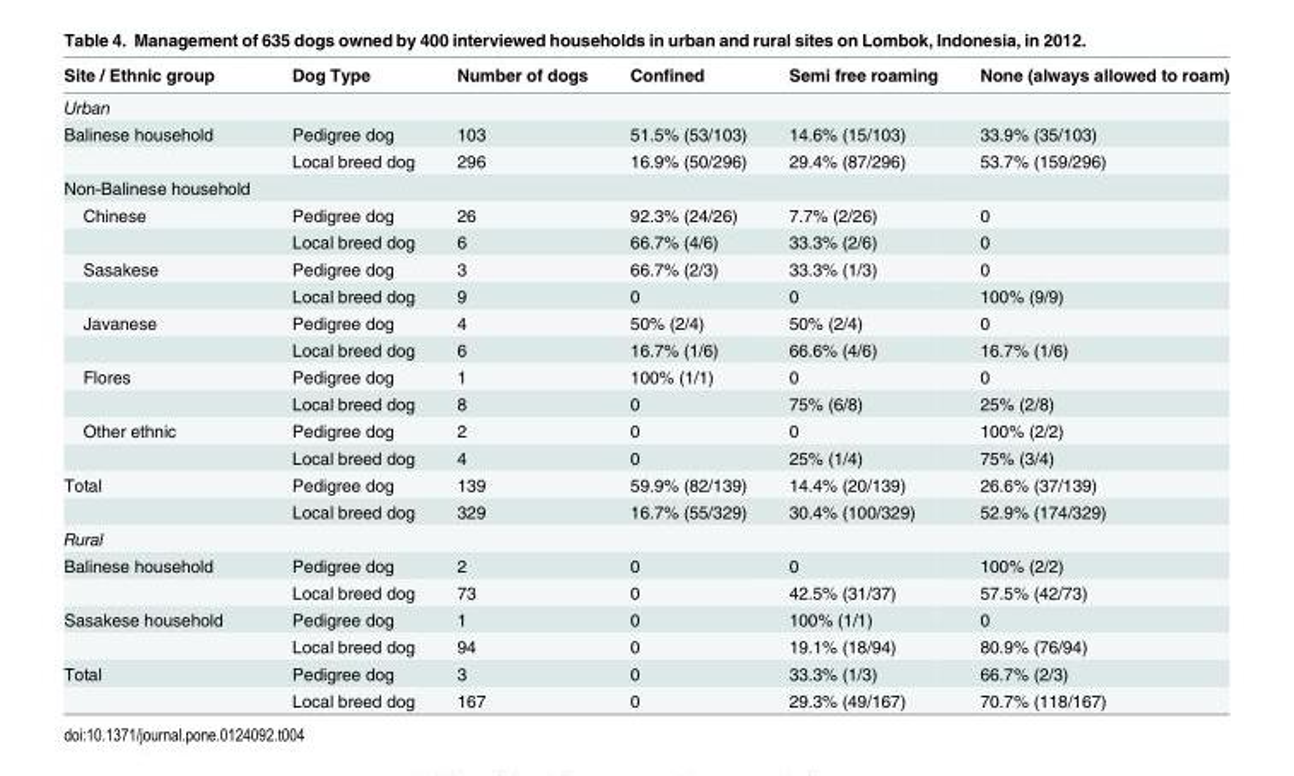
<table><thead><tr><td>Site / Ethnic group</td><td>Dog Type</td><td>Number of dogs</td><td>Confined</td><td>Semi free roaming</td><td>None (always allowed to roam)</td></tr></thead><tbody><tr><td colspan="6">Urban</td></tr><tr><td rowspan="2">Balinese household</td><td>Pedigree dog</td><td>103</td><td>51.5% (53/103)</td><td>14.6% (15/103)</td><td>33.9% (35/103)</td></tr><tr><td>Local breed dog</td><td>296</td><td>16.9% (50/296)</td><td>29.4% (87/296)</td><td>53.7% (159/296)</td></tr><tr><td colspan="6">Non-Balinese household</td></tr><tr><td rowspan="2">Chinese</td><td>Pedigree dog</td><td>26</td><td>92.3% (24/26)</td><td>7.7% (2/26)</td><td>0</td></tr><tr><td>Local breed dog</td><td>6</td><td>66.7% (4/6)</td><td>33.3% (2/6)</td><td>0</td></tr><tr><td rowspan="2">Sasakese</td><td>Pedigree dog</td><td>3</td><td>66.7% (2/3)</td><td>33.3% (1/3)</td><td>0</td></tr><tr><td>Local breed dog</td><td>9</td><td>0</td><td>0</td><td>100% (9/9)</td></tr><tr><td rowspan="2">Javanese</td><td>Pedigree dog</td><td>4</td><td>50% (2/4)</td><td>50% (2/4)</td><td>0</td></tr><tr><td>Local breed dog</td><td>6</td><td>16.7% (1/6)</td><td>66.6% (4/6)</td><td>16.7% (1/6)</td></tr><tr><td rowspan="2">Flores</td><td>Pedigree dog</td><td>1</td><td>100% (1/1)</td><td>0</td><td>0</td></tr><tr><td>Local breed dog</td><td>8</td><td>0</td><td>75% (6/8)</td><td>25% (2/8)</td></tr><tr><td rowspan="2">Other ethnic</td><td>Pedigree dog</td><td>2</td><td>0</td><td>0</td><td>100% (2/2)</td></tr><tr><td>Local breed dog</td><td>4</td><td>0</td><td>25% (1/4)</td><td>75% (3/4)</td></tr><tr><td rowspan="2">Total</td><td>Pedigree dog</td><td>139</td><td>59.9% (82/139)</td><td>14.4% (20/139)</td><td>26.6% (37/139)</td></tr><tr><td>Local breed dog</td><td>329</td><td>16.7% (55/329)</td><td>30.4% (100/329)</td><td>52.9% (174/329)</td></tr><tr><td colspan="6">Rural</td></tr><tr><td rowspan="2">Balinese household</td><td>Pedigree dog</td><td>2</td><td>0</td><td>0</td><td>100% (2/2)</td></tr><tr><td>Local breed dog</td><td>73</td><td>0</td><td>42.5% (31/37)</td><td>57.5% (42/73)</td></tr><tr><td rowspan="2">Sasakese household</td><td>Pedigree dog</td><td>1</td><td>0</td><td>100% (1/1)</td><td>0</td></tr><tr><td>Local breed dog</td><td>94</td><td>0</td><td>19.1% (18/94)</td><td>80.9% (76/94)</td></tr><tr><td rowspan="2">Total</td><td>Pedigree dog</td><td>3</td><td>0</td><td>33.3% (1/3)</td><td>66.7% (2/3)</td></tr><tr><td>Local breed dog</td><td>167</td><td>0</td><td>29.3% (49/167)</td><td>70.7% (118/167)</td></tr></tbody></table>